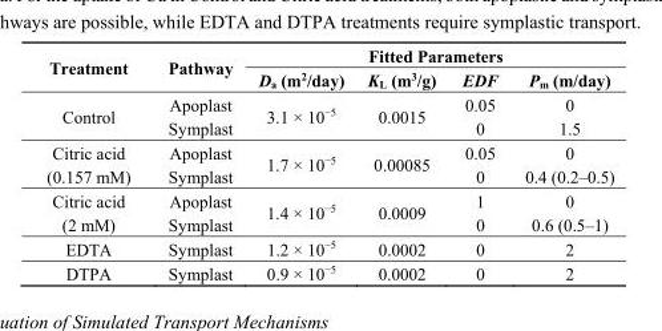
<table><thead><tr><td rowspan="2">Treatment</td><td rowspan="2">Pathway</td><td colspan="4">Fitted Parameters</td></tr><tr><td>D<sub>a</sub> (m<sup>2</sup>/day)</td><td>K<sub>L</sub> (m<sup>3</sup>/g)</td><td>EDF</td><td>P<sub>m</sub> (m/day)</td></tr></thead><tbody><tr><td rowspan="2">Control</td><td>Apoplast</td><td rowspan="2">3.1 × 10<sup>−5</sup></td><td rowspan="2">0.0015</td><td>0.05</td><td>0</td></tr><tr><td>Symplast</td><td>0</td><td>1.5</td></tr><tr><td rowspan="2">Citric acid (0.157 mM)</td><td>Apoplast</td><td rowspan="2">1.7 × 10<sup>−5</sup></td><td rowspan="2">0.00085</td><td>0.05</td><td>0</td></tr><tr><td>Symplast</td><td>0</td><td>0.4 (0.2–0.5)</td></tr><tr><td rowspan="2">Citric acid (2 mM)</td><td>Apoplast</td><td rowspan="2">1.4 × 10<sup>−5</sup></td><td rowspan="2">0.0009</td><td>1</td><td>0</td></tr><tr><td>Symplast</td><td>0</td><td>0.6 (0.5–1)</td></tr><tr><td>EDTA</td><td>Symplast</td><td>1.2 × 10<sup>−5</sup></td><td>0.0002</td><td>0</td><td>2</td></tr><tr><td>DTPA</td><td>Symplast</td><td>0.9 × 10<sup>−5</sup></td><td>0.0002</td><td>0</td><td>2</td></tr></tbody></table>